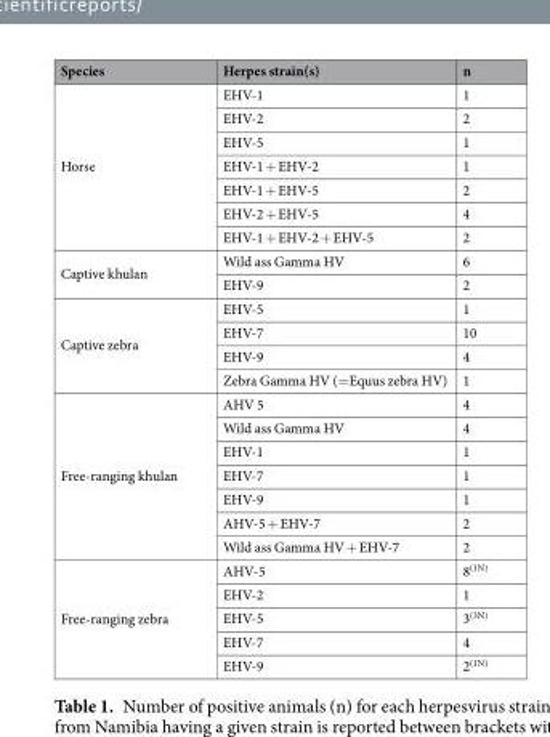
<table><thead><tr><td>Species</td><td>Herpes strain(s)</td><td>n</td></tr></thead><tbody><tr><td rowspan="7">Horse</td><td>EHV-1</td><td>1</td></tr><tr><td>EHV-2</td><td>2</td></tr><tr><td>EHV-5</td><td>1</td></tr><tr><td>EHV-1 + EHV-2</td><td>1</td></tr><tr><td>EHV-1 + EHV-5</td><td>2</td></tr><tr><td>EHV-2 + EHV-5</td><td>4</td></tr><tr><td>EHV-1 + EHV-2 + EHV-5</td><td>2</td></tr><tr><td rowspan="2">Captive khulan</td><td>Wild ass Gamma HV</td><td>6</td></tr><tr><td>EHV-9</td><td>2</td></tr><tr><td rowspan="4">Captive zebra</td><td>EHV-5</td><td>1</td></tr><tr><td>EHV-7</td><td>10</td></tr><tr><td>EHV-9</td><td>4</td></tr><tr><td>Zebra Gamma HV (=Equus zebra HV)</td><td>1</td></tr><tr><td rowspan="7">Free-ranging khulan</td><td>AHV 5</td><td>4</td></tr><tr><td>Wild ass Gamma HV</td><td>4</td></tr><tr><td>EHV-1</td><td>1</td></tr><tr><td>EHV-7</td><td>1</td></tr><tr><td>EHV-9</td><td>1</td></tr><tr><td>AHV-5 + EHV-7</td><td>2</td></tr><tr><td>Wild ass Gamma HV + EHV-7</td><td>2</td></tr><tr><td rowspan="5">Free-ranging zebra</td><td>AHV-5</td><td>8<sup>(1N)</sup></td></tr><tr><td>EHV-2</td><td>1</td></tr><tr><td>EHV-5</td><td>3<sup>(3N)</sup></td></tr><tr><td>EHV-7</td><td>4</td></tr><tr><td>EHV-9</td><td>2<sup>(1N)</sup></td></tr></tbody></table>